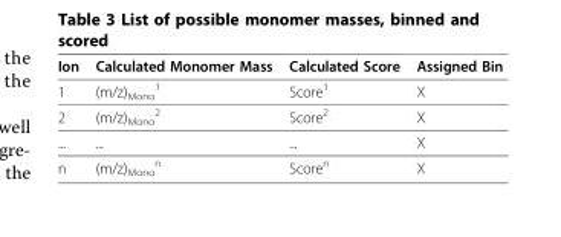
<table><thead><tr><td>Ion</td><td>Calculated Monomer Mass</td><td>Calculated Score</td><td>Assigned Bin</td></tr></thead><tbody><tr><td>1</td><td>(m/z)<sub>Mono</sub> <sup>1</sup></td><td>Score<sup>1</sup></td><td>X</td></tr><tr><td>2</td><td>(m/z)<sub>Mono</sub> <sup>2</sup></td><td>Score<sup>2</sup></td><td>X</td></tr><tr><td>...</td><td>...</td><td>...</td><td>X</td></tr><tr><td>n</td><td>(m/z)<sub>Mono</sub> <sup>n</sup></td><td>Score<sup>n</sup></td><td>X</td></tr></tbody></table>